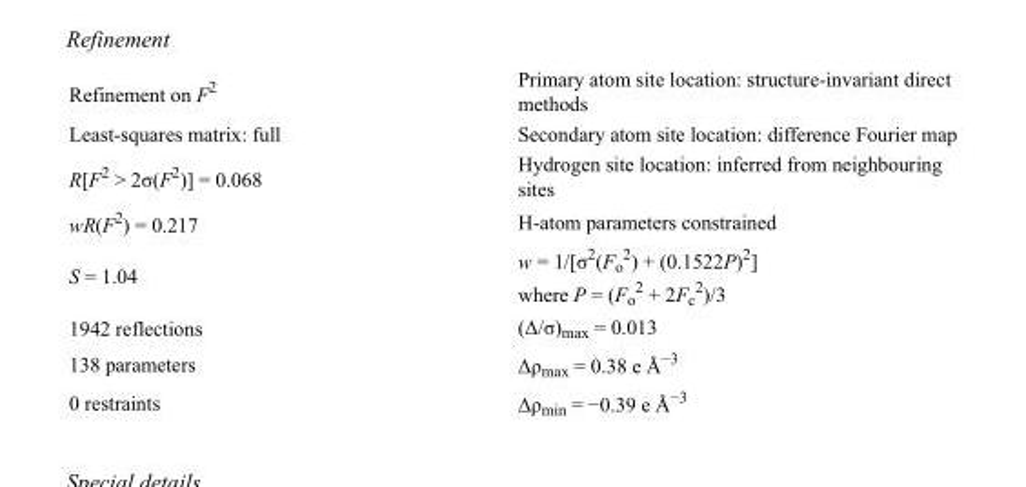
<table><tbody><tr><td>Refinement on F<sup>2</sup></td><td>Primary atom site location: structure-invariant direct methods</td></tr><tr><td>Least-squares matrix: full</td><td>Secondary atom site location: difference Fourier map</td></tr><tr><td>R[F<sup>2</sup> &gt; 2σ(F<sup>2</sup>)] = 0.068</td><td>Hydrogen site location: inferred from neighbouring sites</td></tr><tr><td>wR(F<sup>2</sup>) = 0.217</td><td>H-atom parameters constrained</td></tr><tr><td>S = 1.04</td><td>w = 1/[σ<sup>2</sup>(F<sub>o</sub> <sup>2</sup>) + (0.1522P)<sup>2</sup>] where P = (F<sub>o</sub> <sup>2</sup> + 2F<sub>c</sub> <sup>2</sup>)/3</td></tr><tr><td>1942 reflections</td><td>(Δ/σ)<sub>max</sub> = 0.013</td></tr><tr><td>138 parameters</td><td>Δρ<sub>max</sub> = 0.38 e Å<sup>−3</sup></td></tr><tr><td>0 restraints</td><td>Δρ<sub>min</sub> = −0.39 e Å<sup>−3</sup></td></tr></tbody></table>